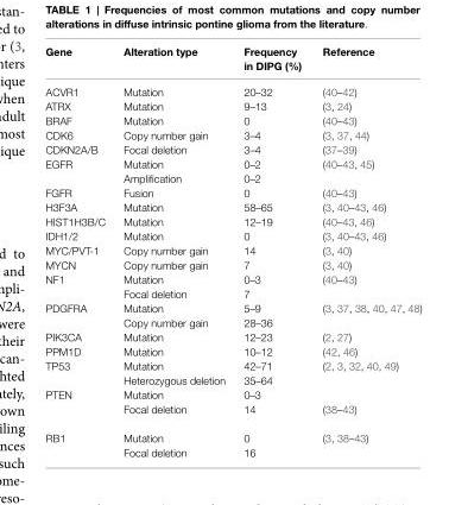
<table><thead><tr><td>Gene</td><td>Alteration type</td><td>Frequency in DIPG (%)</td><td>Reference</td></tr></thead><tbody><tr><td>ACVR1</td><td>Mutation</td><td>20–32</td><td>(40–42)</td></tr><tr><td>ATRX</td><td>Mutation</td><td>9–13</td><td>(3, 24)</td></tr><tr><td>BRAF</td><td>Mutation</td><td>0</td><td>(40–43)</td></tr><tr><td>CDK6</td><td>Copy number gain</td><td>3–4</td><td>(3, 37, 44)</td></tr><tr><td>CDKN2A/B</td><td>Focal deletion</td><td>3–4</td><td>(37–39)</td></tr><tr><td rowspan="2">EGFR</td><td>Mutation</td><td>0–2</td><td>(40–43, 45)</td></tr><tr><td>Amplification</td><td>0–2</td><td></td></tr><tr><td>FGFR</td><td>Fusion</td><td>0</td><td>(40–43)</td></tr><tr><td>H3F3A</td><td>Mutation</td><td>58–65</td><td>(3, 40–43, 46)</td></tr><tr><td>HIST1H3B/C</td><td>Mutation</td><td>12–19</td><td>(40–43, 46)</td></tr><tr><td>IDH1/2</td><td>Mutation</td><td>0</td><td>(3, 40–43, 46)</td></tr><tr><td>MYC/PVT-1</td><td>Copy number gain</td><td>14</td><td>(3, 40)</td></tr><tr><td>MYCN</td><td>Copy number gain</td><td>7</td><td>(3, 40)</td></tr><tr><td rowspan="2">NF1</td><td>Mutation</td><td>0–3</td><td>(40–43)</td></tr><tr><td>Focal deletion</td><td>7</td><td></td></tr><tr><td rowspan="2">PDGFRA</td><td>Mutation</td><td>5–9</td><td>(3, 37, 38, 40, 47, 48)</td></tr><tr><td>Copy number gain</td><td>28–36</td><td></td></tr><tr><td>PIK3CA</td><td>Mutation</td><td>12–23</td><td>(2, 27)</td></tr><tr><td>PPM1D</td><td>Mutation</td><td>10–12</td><td>(42, 46)</td></tr><tr><td rowspan="2">TP53</td><td>Mutation</td><td>42–71</td><td>(2, 3, 32, 40, 49)</td></tr><tr><td>Heterozygous deletion</td><td>35–64</td><td></td></tr><tr><td rowspan="2">PTEN</td><td>Mutation</td><td>0–3</td><td></td></tr><tr><td>Focal deletion</td><td>14</td><td>(38–43)</td></tr><tr><td rowspan="2">RB1</td><td>Mutation</td><td>0</td><td>(3, 38–43)</td></tr><tr><td>Focal deletion</td><td>16</td><td></td></tr></tbody></table>